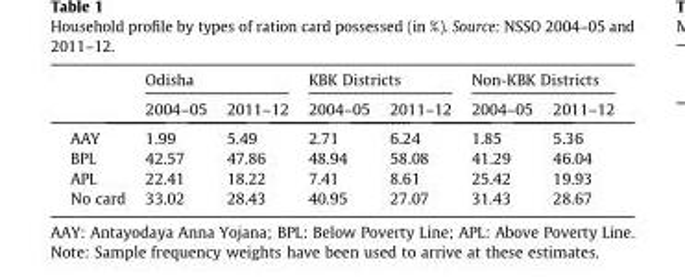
<table><thead><tr><td rowspan="2"></td><td colspan="2">Odisha</td><td colspan="2">KBK Districts</td><td colspan="2">Non-KBK Districts</td></tr><tr><td>2004–05</td><td>2011–12</td><td>2004–05</td><td>2011–12</td><td>2004–05</td><td>2011–12</td></tr></thead><tbody><tr><td>AAY</td><td>1.99</td><td>5.49</td><td>2.71</td><td>6.24</td><td>1.85</td><td>5.36</td></tr><tr><td>BPL</td><td>42.57</td><td>47.86</td><td>48.94</td><td>58.08</td><td>41.29</td><td>46.04</td></tr><tr><td>APL</td><td>22.41</td><td>18.22</td><td>7.41</td><td>8.61</td><td>25.42</td><td>19.93</td></tr><tr><td>No card</td><td>33.02</td><td>28.43</td><td>40.95</td><td>27.07</td><td>31.43</td><td>28.67</td></tr></tbody></table>